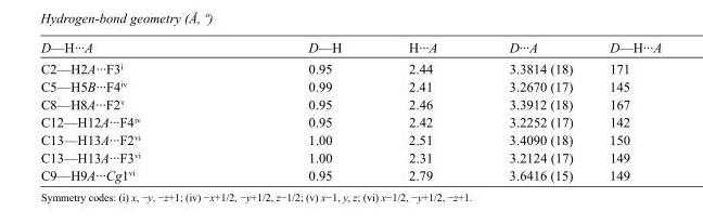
<table><tbody><tr><td>D—H···A</td><td>D—H</td><td>H···A</td><td>D···A</td><td>D—H···A</td></tr><tr><td>C2—H2A···F3<sup>i</sup></td><td>0.95</td><td>2.44</td><td>3.3814 (18)</td><td>171</td></tr><tr><td>C5—H5B···F4<sup>iv</sup></td><td>0.99</td><td>2.41</td><td>3.2670 (17)</td><td>145</td></tr><tr><td>C8—H8A···F2<sup>v</sup></td><td>0.95</td><td>2.46</td><td>3.3912 (18)</td><td>167</td></tr><tr><td>C12—H12A···F4<sup>iv</sup></td><td>0.95</td><td>2.42</td><td>3.2252 (17)</td><td>142</td></tr><tr><td>C13—H13A···F2<sup>vi</sup></td><td>1.00</td><td>2.51</td><td>3.4090 (18)</td><td>150</td></tr><tr><td>C13—H13A···F3<sup>vi</sup></td><td>1.00</td><td>2.31</td><td>3.2124 (17)</td><td>149</td></tr><tr><td>C9—H9A···Cg1<sup>vi</sup></td><td>0.95</td><td>2.79</td><td>3.6416 (15)</td><td>149</td></tr></tbody></table>